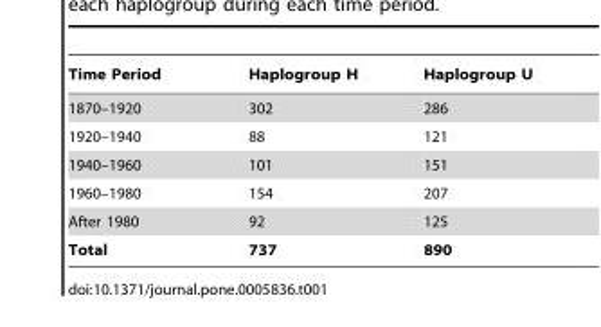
<table><thead><tr><td>Time Period</td><td>Haplogroup H</td><td>Haplogroup U</td></tr></thead><tbody><tr><td>1870–1920</td><td>302</td><td>286</td></tr><tr><td>1920–1940</td><td>88</td><td>121</td></tr><tr><td>1940–1960</td><td>101</td><td>151</td></tr><tr><td>1960–1980</td><td>154</td><td>207</td></tr><tr><td>After 1980</td><td>92</td><td>125</td></tr><tr><td>Total</td><td>737</td><td>890</td></tr></tbody></table>